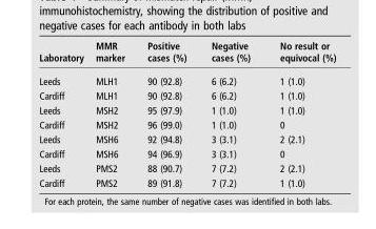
<table><thead><tr><td>Laboratory</td><td>MMR marker</td><td>Positive cases (%)</td><td>Negative cases (%)</td><td>No result or equivocal (%)</td></tr></thead><tbody><tr><td>Leeds</td><td>MLH1</td><td>90 (92.8)</td><td>6 (6.2)</td><td>1 (1.0)</td></tr><tr><td>Cardiff</td><td>MLH1</td><td>90 (92.8)</td><td>6 (6.2)</td><td>1 (1.0)</td></tr><tr><td>Leeds</td><td>MSH2</td><td>95 (97.9)</td><td>1 (1.0)</td><td>1 (1.0)</td></tr><tr><td>Cardiff</td><td>MSH2</td><td>96 (99.0)</td><td>1 (1.0)</td><td>0</td></tr><tr><td>Leeds</td><td>MSH6</td><td>92 (94.8)</td><td>3 (3.1)</td><td>2 (2.1)</td></tr><tr><td>Cardiff</td><td>MSH6</td><td>94 (96.9)</td><td>3 (3.1)</td><td>0</td></tr><tr><td>Leeds</td><td>PMS2</td><td>88 (90.7)</td><td>7 (7.2)</td><td>2 (2.1)</td></tr><tr><td>Cardiff</td><td>PMS2</td><td>89 (91.8)</td><td>7 (7.2)</td><td>1 (1.0)</td></tr></tbody></table>